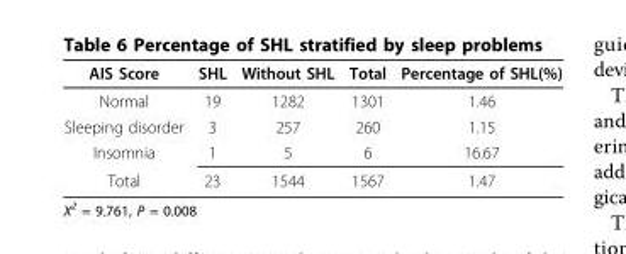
<table><thead><tr><td>AIS Score</td><td>SHL</td><td>Without SHL</td><td>Total</td><td>Percentage of SHL(%)</td></tr></thead><tbody><tr><td>Normal</td><td>19</td><td>1282</td><td>1301</td><td>1.46</td></tr><tr><td>Sleeping disorder</td><td>3</td><td>257</td><td>260</td><td>1.15</td></tr><tr><td>Insomnia</td><td>1</td><td>5</td><td>6</td><td>16.67</td></tr><tr><td>Total</td><td>23</td><td>1544</td><td>1567</td><td>1.47</td></tr></tbody></table>